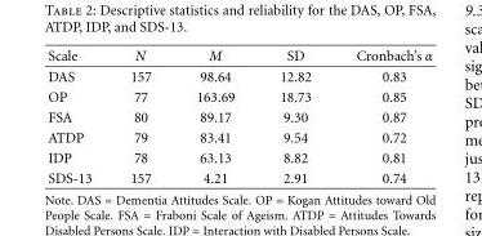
<table><thead><tr><td>Scale</td><td>N</td><td>M</td><td>SD</td><td>Cronbach’s α</td></tr></thead><tbody><tr><td>DAS</td><td>157</td><td>98.64</td><td>12.82</td><td>0.83</td></tr><tr><td>OP</td><td>77</td><td>163.69</td><td>18.73</td><td>0.85</td></tr><tr><td>FSA</td><td>80</td><td>89.17</td><td>9.30</td><td>0.87</td></tr><tr><td>ATDP</td><td>79</td><td>83.41</td><td>9.54</td><td>0.72</td></tr><tr><td>IDP</td><td>78</td><td>63.13</td><td>8.82</td><td>0.81</td></tr><tr><td>SDS-13</td><td>157</td><td>4.21</td><td>2.91</td><td>0.74</td></tr></tbody></table>